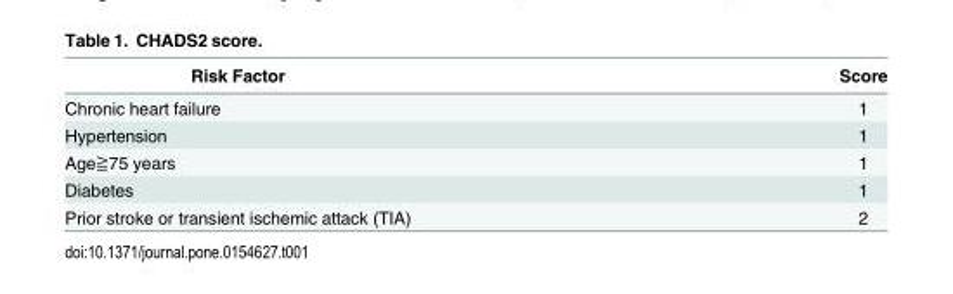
<table><thead><tr><td>Risk Factor</td><td>Score</td></tr></thead><tbody><tr><td>Chronic heart failure</td><td>1</td></tr><tr><td>Hypertension</td><td>1</td></tr><tr><td>Age≧75 years</td><td>1</td></tr><tr><td>Diabetes</td><td>1</td></tr><tr><td>Prior stroke or transient ischemic attack (TIA)</td><td>2</td></tr></tbody></table>